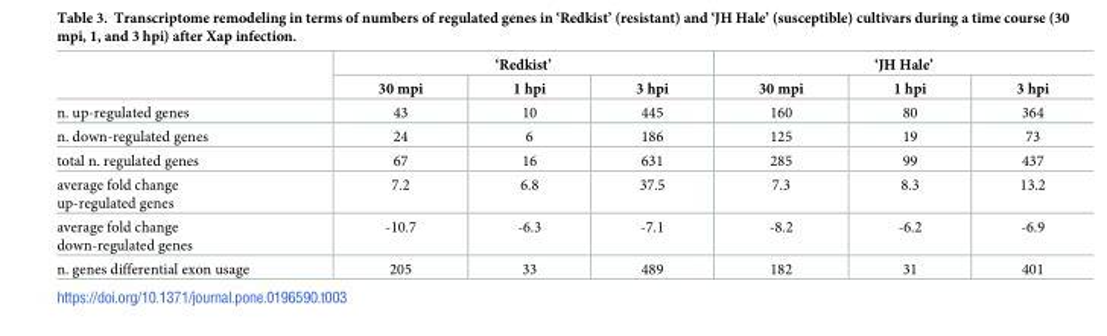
<table><thead><tr><td rowspan="2"></td><td colspan="3">‘Redkist’</td><td colspan="3">‘JH Hale’</td></tr><tr><td>30 mpi</td><td>1 hpi</td><td>3 hpi</td><td>30 mpi</td><td>1 hpi</td><td>3 hpi</td></tr></thead><tbody><tr><td>n. up-regulated genes</td><td>43</td><td>10</td><td>445</td><td>160</td><td>80</td><td>364</td></tr><tr><td>n. down-regulated genes</td><td>24</td><td>6</td><td>186</td><td>125</td><td>19</td><td>73</td></tr><tr><td>total n. regulated genes</td><td>67</td><td>16</td><td>631</td><td>285</td><td>99</td><td>437</td></tr><tr><td>average fold change up-regulated genes</td><td>7.2</td><td>6.8</td><td>37.5</td><td>7.3</td><td>8.3</td><td>13.2</td></tr><tr><td>average fold change down-regulated genes</td><td>-10.7</td><td>-6.3</td><td>-7.1</td><td>-8.2</td><td>-6.2</td><td>-6.9</td></tr><tr><td>n. genes differential exon usage</td><td>205</td><td>33</td><td>489</td><td>182</td><td>31</td><td>401</td></tr></tbody></table>